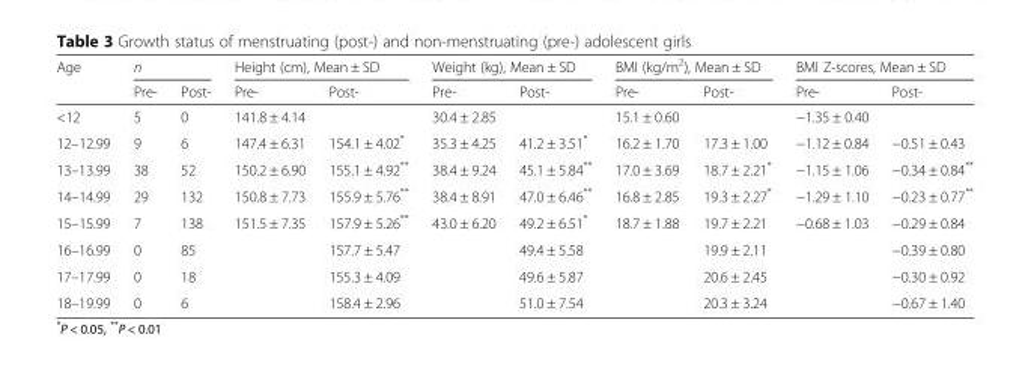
<table><thead><tr><td rowspan="2">Age</td><td colspan="2">n</td><td colspan="2">Height (cm), Mean ± SD</td><td colspan="2">Weight (kg), Mean ± SD</td><td colspan="2">BMI (kg/m<sup>2</sup>), Mean ± SD</td><td colspan="2">BMI Z-scores, Mean ± SD</td></tr><tr><td>Pre-</td><td>Post-</td><td>Pre-</td><td>Post-</td><td>Pre-</td><td>Post-</td><td>Pre-</td><td>Post-</td><td>Pre-</td><td>Post-</td></tr></thead><tbody><tr><td>&lt;12</td><td>5</td><td>0</td><td>141.8 ± 4.14</td><td></td><td>30.4 ± 2.85</td><td></td><td>15.1 ± 0.60</td><td></td><td>−1.35 ± 0.40</td><td></td></tr><tr><td>12–12.99</td><td>9</td><td>6</td><td>147.4 ± 6.31</td><td>154.1 ± 4.02*</td><td>35.3 ± 4.25</td><td>41.2 ± 3.51*</td><td>16.2 ± 1.70</td><td>17.3 ± 1.00</td><td>−1.12 ± 0.84</td><td>−0.51 ± 0.43</td></tr><tr><td>13–13.99</td><td>38</td><td>52</td><td>150.2 ± 6.90</td><td>155.1 ± 4.92**</td><td>38.4 ± 9.24</td><td>45.1 ± 5.84**</td><td>17.0 ± 3.69</td><td>18.7 ± 2.21*</td><td>−1.15 ± 1.06</td><td>−0.34 ± 0.84**</td></tr><tr><td>14–14.99</td><td>29</td><td>132</td><td>150.8 ± 7.73</td><td>155.9 ± 5.76**</td><td>38.4 ± 8.91</td><td>47.0 ± 6.46**</td><td>16.8 ± 2.85</td><td>19.3 ± 2.27*</td><td>−1.29 ± 1.10</td><td>−0.23 ± 0.77**</td></tr><tr><td>15–15.99</td><td>7</td><td>138</td><td>151.5 ± 7.35</td><td>157.9 ± 5.26**</td><td>43.0 ± 6.20</td><td>49.2 ± 6.51*</td><td>18.7 ± 1.88</td><td>19.7 ± 2.21</td><td>−0.68 ± 1.03</td><td>−0.29 ± 0.84</td></tr><tr><td>16–16.99</td><td>0</td><td>85</td><td></td><td>157.7 ± 5.47</td><td></td><td>49.4 ± 5.58</td><td></td><td>19.9 ± 2.11</td><td></td><td>−0.39 ± 0.80</td></tr><tr><td>17–17.99</td><td>0</td><td>18</td><td></td><td>155.3 ± 4.09</td><td></td><td>49.6 ± 5.87</td><td></td><td>20.6 ± 2.45</td><td></td><td>−0.30 ± 0.92</td></tr><tr><td>18–19.99</td><td>0</td><td>6</td><td></td><td>158.4 ± 2.96</td><td></td><td>51.0 ± 7.54</td><td></td><td>20.3 ± 3.24</td><td></td><td>−0.67 ± 1.40</td></tr></tbody></table>